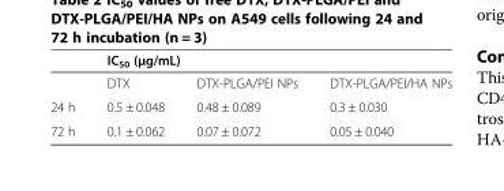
<table><thead><tr><td rowspan="2"></td><td colspan="3">IC<sub>50</sub> (μg/mL)</td></tr><tr><td>DTX</td><td>DTX-PLGA/PEI NPs</td><td>DTX-PLGA/PEI/HA NPs</td></tr></thead><tbody><tr><td>24 h</td><td>0.5 ± 0.048</td><td>0.48 ± 0.089</td><td>0.3 ± 0.030</td></tr><tr><td>72 h</td><td>0.1 ± 0.062</td><td>0.07 ± 0.072</td><td>0.05 ± 0.040</td></tr></tbody></table>